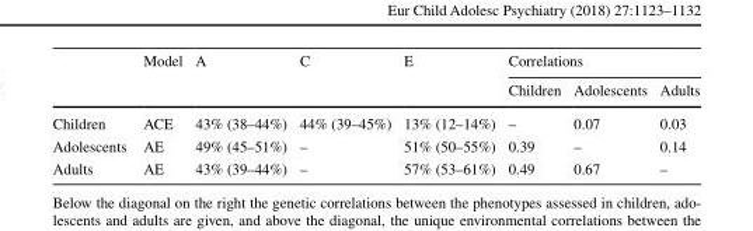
<table><thead><tr><td rowspan="2"></td><td rowspan="2">Model</td><td rowspan="2">A</td><td rowspan="2">C</td><td rowspan="2">E</td><td colspan="3">Correlations</td></tr><tr><td>Children</td><td>Adolescents</td><td>Adults</td></tr></thead><tbody><tr><td>Children</td><td>ACE</td><td>43% (38–44%)</td><td>44% (39–45%)</td><td>13% (12–14%)</td><td>–</td><td>0.07</td><td>0.03</td></tr><tr><td>Adolescents</td><td>AE</td><td>49% (45–51%)</td><td>–</td><td>51% (50–55%)</td><td>0.39</td><td>–</td><td>0.14</td></tr><tr><td>Adults</td><td>AE</td><td>43% (39–44%)</td><td>–</td><td>57% (53–61%)</td><td>0.49</td><td>0.67</td><td>–</td></tr></tbody></table>